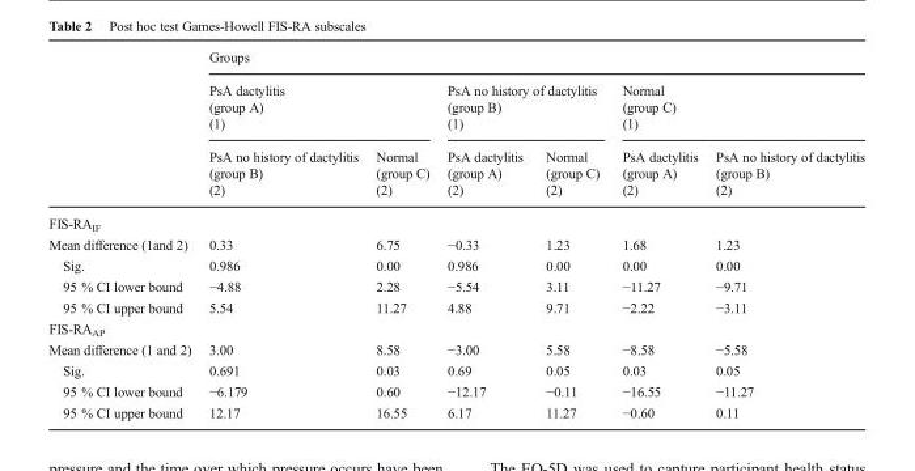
<table><thead><tr><td rowspan="3"></td><td colspan="6">Groups</td></tr><tr><td colspan="2">PsA dactylitis (group A) (1)</td><td colspan="2">PsA no history of dactylitis (group B) (1)</td><td colspan="2">Normal (group C) (1)</td></tr><tr><td>PsA no history of dactylitis (group B) (2)</td><td>Normal (group C) (2)</td><td>PsA dactylitis (group A) (2)</td><td>Normal (group C) (2)</td><td>PsA dactylitis (group A) (2)</td><td>PsA no history of dactylitis (group B) (2)</td></tr></thead><tbody><tr><td colspan="7">FIS-RA<sub>IF</sub></td></tr><tr><td>Mean difference (1and 2)</td><td>0.33</td><td>6.75</td><td>−0.33</td><td>1.23</td><td>1.68</td><td>1.23</td></tr><tr><td>Sig.</td><td>0.986</td><td>0.00</td><td>0.986</td><td>0.00</td><td>0.00</td><td>0.00</td></tr><tr><td>95 % CI lower bound</td><td>−4.88</td><td>2.28</td><td>−5.54</td><td>3.11</td><td>−11.27</td><td>−9.71</td></tr><tr><td>95 % CI upper bound</td><td>5.54</td><td>11.27</td><td>4.88</td><td>9.71</td><td>−2.22</td><td>−3.11</td></tr><tr><td colspan="7">FIS-RA<sub>AP</sub></td></tr><tr><td>Mean difference (1 and 2)</td><td>3.00</td><td>8.58</td><td>−3.00</td><td>5.58</td><td>−8.58</td><td>−5.58</td></tr><tr><td>Sig.</td><td>0.691</td><td>0.03</td><td>0.69</td><td>0.05</td><td>0.03</td><td>0.05</td></tr><tr><td>95 % CI lower bound</td><td>−6.179</td><td>0.60</td><td>−12.17</td><td>−0.11</td><td>−16.55</td><td>−11.27</td></tr><tr><td>95 % CI upper bound</td><td>12.17</td><td>16.55</td><td>6.17</td><td>11.27</td><td>−0.60</td><td>0.11</td></tr></tbody></table>